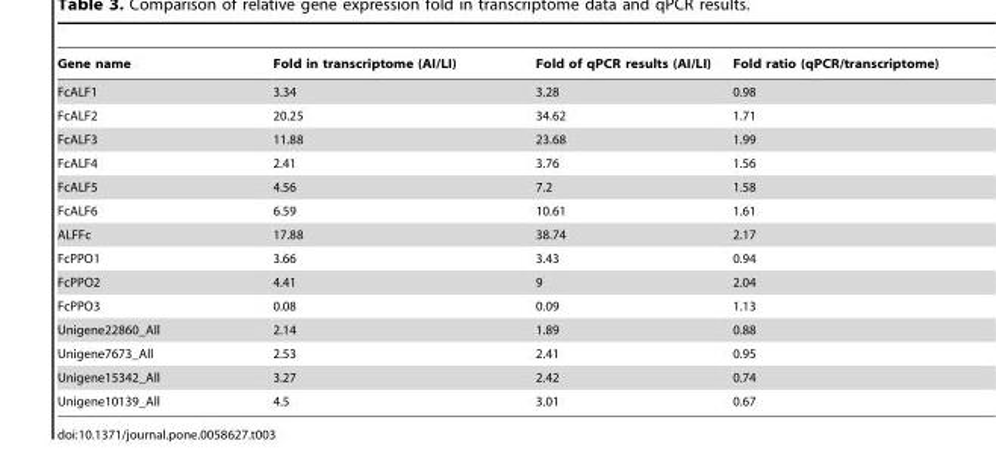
<table><thead><tr><td>Gene name</td><td>Fold in transcriptome (AI/LI)</td><td>Fold of qPCR results (AI/LI)</td><td>Fold ratio (qPCR/transcriptome)</td></tr></thead><tbody><tr><td>FcALF1</td><td>3.34</td><td>3.28</td><td>0.98</td></tr><tr><td>FcALF2</td><td>20.25</td><td>34.62</td><td>1.71</td></tr><tr><td>FcALF3</td><td>11.88</td><td>23.68</td><td>1.99</td></tr><tr><td>FcALF4</td><td>2.41</td><td>3.76</td><td>1.56</td></tr><tr><td>FcALF5</td><td>4.56</td><td>7.2</td><td>1.58</td></tr><tr><td>FcALF6</td><td>6.59</td><td>10.61</td><td>1.61</td></tr><tr><td>ALFFc</td><td>17.88</td><td>38.74</td><td>2.17</td></tr><tr><td>FcPPO1</td><td>3.66</td><td>3.43</td><td>0.94</td></tr><tr><td>FcPPO2</td><td>4.41</td><td>9</td><td>2.04</td></tr><tr><td>FcPPO3</td><td>0.08</td><td>0.09</td><td>1.13</td></tr><tr><td>Unigene22860_All</td><td>2.14</td><td>1.89</td><td>0.88</td></tr><tr><td>Unigene7673_All</td><td>2.53</td><td>2.41</td><td>0.95</td></tr><tr><td>Unigene15342_All</td><td>3.27</td><td>2.42</td><td>0.74</td></tr><tr><td>Unigene10139_All</td><td>4.5</td><td>3.01</td><td>0.67</td></tr></tbody></table>